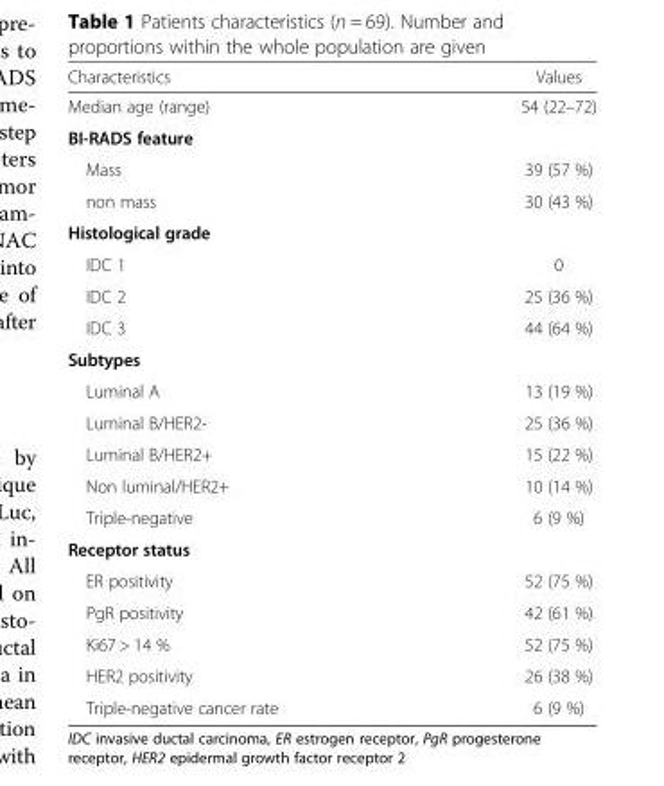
<table><thead><tr><td>Characteristics</td><td>Values</td></tr></thead><tbody><tr><td>Median age (range)</td><td>54 (22–72)</td></tr><tr><td colspan="2">BI-RADS feature</td></tr><tr><td>Mass</td><td>39 (57 %)</td></tr><tr><td>non mass</td><td>30 (43 %)</td></tr><tr><td colspan="2">Histological grade</td></tr><tr><td>IDC 1</td><td>0</td></tr><tr><td>IDC 2</td><td>25 (36 %)</td></tr><tr><td>IDC 3</td><td>44 (64 %)</td></tr><tr><td colspan="2">Subtypes</td></tr><tr><td>Luminal A</td><td>13 (19 %)</td></tr><tr><td>Luminal B/HER2-</td><td>25 (36 %)</td></tr><tr><td>Luminal B/HER2+</td><td>15 (22 %)</td></tr><tr><td>Non luminal/HER2+</td><td>10 (14 %)</td></tr><tr><td>Triple-negative</td><td>6 (9 %)</td></tr><tr><td colspan="2">Receptor status</td></tr><tr><td>ER positivity</td><td>52 (75 %)</td></tr><tr><td>PgR positivity</td><td>42 (61 %)</td></tr><tr><td>Ki67 &gt; 14 %</td><td>52 (75 %)</td></tr><tr><td>HER2 positivity</td><td>26 (38 %)</td></tr><tr><td>Triple-negative cancer rate</td><td>6 (9 %)</td></tr></tbody></table>